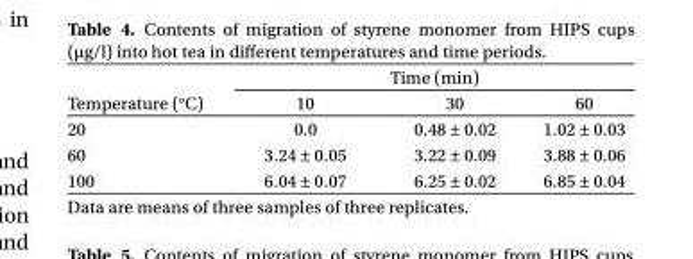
<table><thead><tr><td rowspan="2">Temperature (°C)</td><td colspan="3">Time (min)</td></tr><tr><td>10</td><td>30</td><td>60</td></tr></thead><tbody><tr><td>20</td><td>0.0</td><td>0.48 ± 0.02</td><td>1.02 ± 0.03</td></tr><tr><td>60</td><td>3.24 ± 0.05</td><td>3.22 ± 0.09</td><td>3.88 ± 0.06</td></tr><tr><td>100</td><td>6.04 ± 0.07</td><td>6.25 ± 0.02</td><td>6.85 ± 0.04</td></tr></tbody></table>